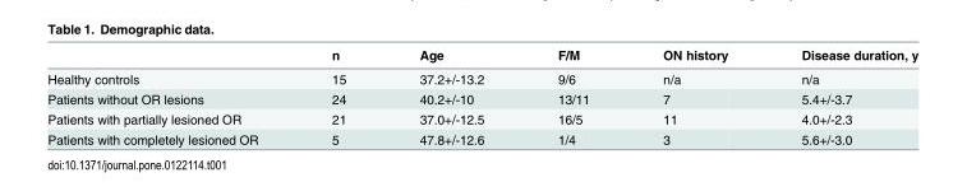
<table><thead><tr><td></td><td>n</td><td>Age</td><td>F/M</td><td>ON history</td><td>Disease duration, y</td></tr></thead><tbody><tr><td>Healthy controls</td><td>15</td><td>37.2+/-13.2</td><td>9/6</td><td>n/a</td><td>n/a</td></tr><tr><td>Patients without OR lesions</td><td>24</td><td>40.2+/-10</td><td>13/11</td><td>7</td><td>5.4+/-3.7</td></tr><tr><td>Patients with partially lesioned OR</td><td>21</td><td>37.0+/-12.5</td><td>16/5</td><td>11</td><td>4.0+/-2.3</td></tr><tr><td>Patients with completely lesioned OR</td><td>5</td><td>47.8+/-12.6</td><td>1/4</td><td>3</td><td>5.6+/-3.0</td></tr></tbody></table>